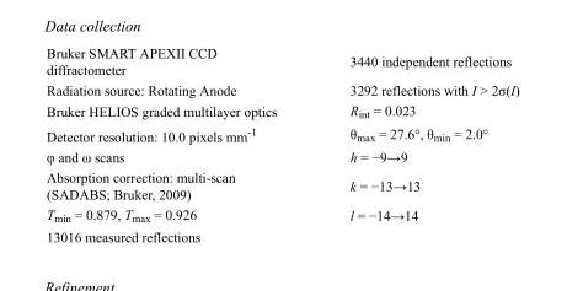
<table><tbody><tr><td>Bruker SMART APEXII CCD diffractometer</td><td>3440 independent reflections</td></tr><tr><td>Radiation source: Rotating Anode</td><td>3292 reflections with I &gt; 2σ(I)</td></tr><tr><td>Bruker HELIOS graded multilayer optics</td><td>R<sub>int</sub> = 0.023</td></tr><tr><td>Detector resolution: 10.0 pixels mm<sup>-1</sup></td><td>θ<sub>max</sub> = 27.6°, θ<sub>min</sub> = 2.0°</td></tr><tr><td>φ and ω scans</td><td>h = −9→9</td></tr><tr><td>Absorption correction: multi-scan (SADABS; Bruker, 2009)</td><td>k = −13→13</td></tr><tr><td>T<sub>min</sub> = 0.879, T<sub>max</sub> = 0.926</td><td>l = −14→14</td></tr><tr><td>13016 measured reflections</td><td></td></tr></tbody></table>